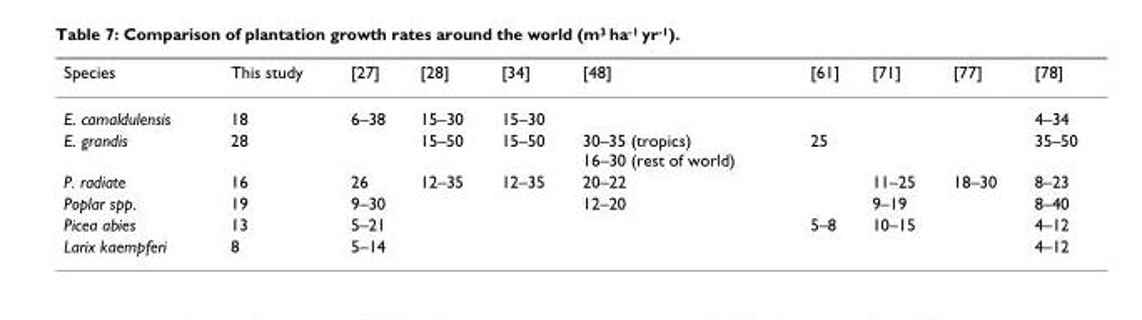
<table><thead><tr><td>Species</td><td>This study</td><td>[27]</td><td>[28]</td><td>[34]</td><td>[48]</td><td>[61]</td><td>[71]</td><td>[77]</td><td>[78]</td></tr></thead><tbody><tr><td>E. camaldulensis</td><td>18</td><td>6–38</td><td>15–30</td><td>15–30</td><td></td><td></td><td></td><td></td><td>4–34</td></tr><tr><td>E. grandis</td><td>28</td><td></td><td>15–50</td><td>15–50</td><td>30–35 (tropics) 16–30 (rest of world)</td><td>25</td><td></td><td></td><td>35–50</td></tr><tr><td>P. radiate</td><td>16</td><td>26</td><td>12–35</td><td>12–35</td><td>20–22</td><td></td><td>11–25</td><td>18–30</td><td>8–23</td></tr><tr><td>Poplar spp.</td><td>19</td><td>9–30</td><td></td><td></td><td>12–20</td><td></td><td>9–19</td><td></td><td>8–40</td></tr><tr><td>Picea abies</td><td>13</td><td>5–21</td><td></td><td></td><td></td><td>5–8</td><td>10–15</td><td></td><td>4–12</td></tr><tr><td>Larix kaempferi</td><td>8</td><td>5–14</td><td></td><td></td><td></td><td></td><td></td><td></td><td>4–12</td></tr></tbody></table>